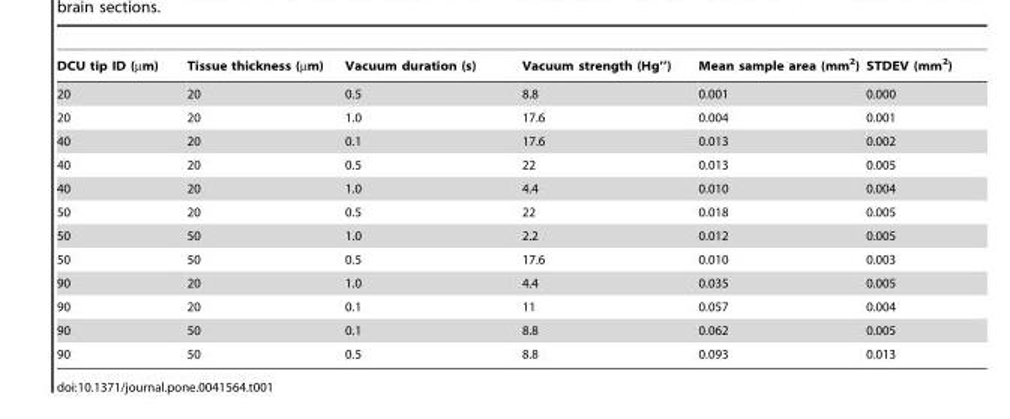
<table><thead><tr><td>DCU tip ID (µm)</td><td>Tissue thickness (µm)</td><td>Vacuum duration (s)</td><td>Vacuum strength (Hg’’)</td><td>Mean sample area (mm<sup>2</sup>)</td><td>STDEV (mm<sup>2</sup>)</td></tr></thead><tbody><tr><td>20</td><td>20</td><td>0.5</td><td>8.8</td><td>0.001</td><td>0.000</td></tr><tr><td>20</td><td>20</td><td>1.0</td><td>17.6</td><td>0.004</td><td>0.001</td></tr><tr><td>40</td><td>20</td><td>0.1</td><td>17.6</td><td>0.013</td><td>0.002</td></tr><tr><td>40</td><td>20</td><td>0.5</td><td>22</td><td>0.013</td><td>0.005</td></tr><tr><td>40</td><td>20</td><td>1.0</td><td>4.4</td><td>0.010</td><td>0.004</td></tr><tr><td>50</td><td>20</td><td>0.5</td><td>22</td><td>0.018</td><td>0.005</td></tr><tr><td>50</td><td>50</td><td>1.0</td><td>2.2</td><td>0.012</td><td>0.005</td></tr><tr><td>50</td><td>50</td><td>0.5</td><td>17.6</td><td>0.010</td><td>0.003</td></tr><tr><td>90</td><td>20</td><td>1.0</td><td>4.4</td><td>0.035</td><td>0.005</td></tr><tr><td>90</td><td>20</td><td>0.1</td><td>11</td><td>0.057</td><td>0.004</td></tr><tr><td>90</td><td>50</td><td>0.1</td><td>8.8</td><td>0.062</td><td>0.005</td></tr><tr><td>90</td><td>50</td><td>0.5</td><td>8.8</td><td>0.093</td><td>0.013</td></tr></tbody></table>